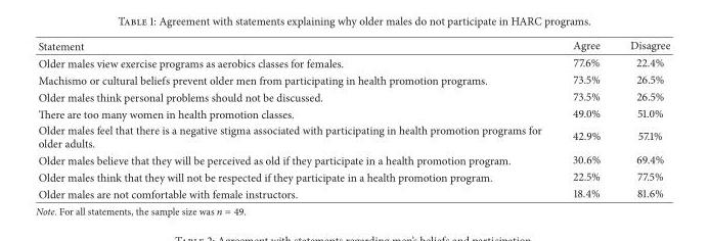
<table><thead><tr><td>Statement</td><td>Agree</td><td>Disagree</td></tr></thead><tbody><tr><td>Older males view exercise programs as aerobics classes for females.</td><td>77.6%</td><td>22.4%</td></tr><tr><td>Machismo or cultural beliefs prevent older men from participating in health promotion programs.</td><td>73.5%</td><td>26.5%</td></tr><tr><td>Older males think personal problems should not be discussed.</td><td>73.5%</td><td>26.5%</td></tr><tr><td>There are too many women in health promotion classes.</td><td>49.0%</td><td>51.0%</td></tr><tr><td>Older males feel that there is a negative stigma associated with participating in health promotion programs for older adults.</td><td>42.9%</td><td>57.1%</td></tr><tr><td>Older males believe that they will be perceived as old if they participate in a health promotion program.</td><td>30.6%</td><td>69.4%</td></tr><tr><td>Older males think that they will not be respected if they participate in a health promotion program.</td><td>22.5%</td><td>77.5%</td></tr><tr><td>Older males are not comfortable with female instructors.</td><td>18.4%</td><td>81.6%</td></tr></tbody></table>